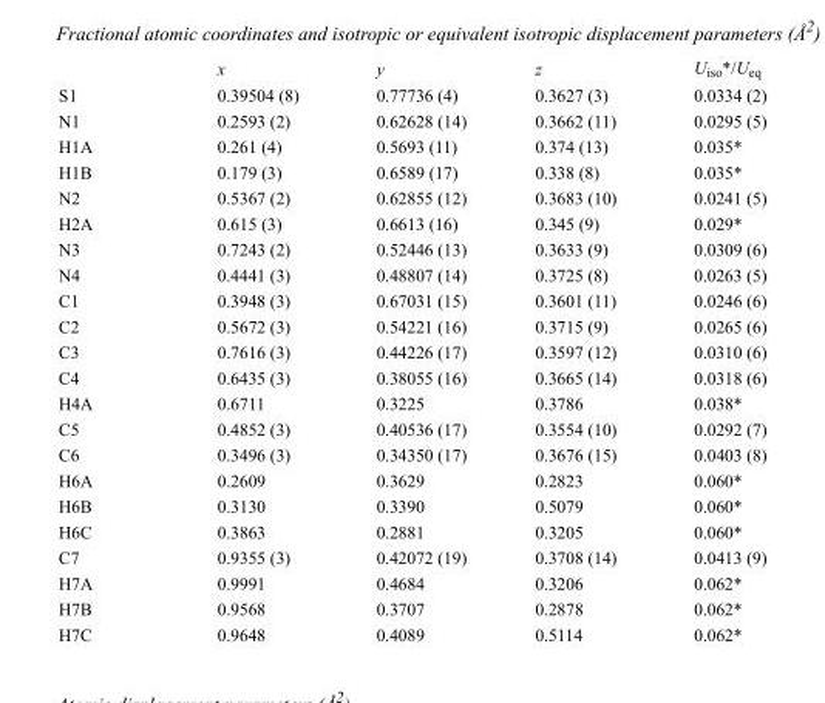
<table><thead><tr><td></td><td>x</td><td>y</td><td>z</td><td>U<sub>iso</sub>*/U<sub>eq</sub></td></tr></thead><tbody><tr><td>S1</td><td>0.39504 (8)</td><td>0.77736 (4)</td><td>0.3627 (3)</td><td>0.0334 (2)</td></tr><tr><td>N1</td><td>0.2593 (2)</td><td>0.62628 (14)</td><td>0.3662 (11)</td><td>0.0295 (5)</td></tr><tr><td>H1A</td><td>0.261 (4)</td><td>0.5693 (11)</td><td>0.374 (13)</td><td>0.035*</td></tr><tr><td>H1B</td><td>0.179 (3)</td><td>0.6589 (17)</td><td>0.338 (8)</td><td>0.035*</td></tr><tr><td>N2</td><td>0.5367 (2)</td><td>0.62855 (12)</td><td>0.3683 (10)</td><td>0.0241 (5)</td></tr><tr><td>H2A</td><td>0.615 (3)</td><td>0.6613 (16)</td><td>0.345 (9)</td><td>0.029*</td></tr><tr><td>N3</td><td>0.7243 (2)</td><td>0.52446 (13)</td><td>0.3633 (9)</td><td>0.0309 (6)</td></tr><tr><td>N4</td><td>0.4441 (3)</td><td>0.48807 (14)</td><td>0.3725 (8)</td><td>0.0263 (5)</td></tr><tr><td>C1</td><td>0.3948 (3)</td><td>0.67031 (15)</td><td>0.3601 (11)</td><td>0.0246 (6)</td></tr><tr><td>C2</td><td>0.5672 (3)</td><td>0.54221 (16)</td><td>0.3715 (9)</td><td>0.0265 (6)</td></tr><tr><td>C3</td><td>0.7616 (3)</td><td>0.44226 (17)</td><td>0.3597 (12)</td><td>0.0310 (6)</td></tr><tr><td>C4</td><td>0.6435 (3)</td><td>0.38055 (16)</td><td>0.3665 (14)</td><td>0.0318 (6)</td></tr><tr><td>H4A</td><td>0.6711</td><td>0.3225</td><td>0.3786</td><td>0.038*</td></tr><tr><td>C5</td><td>0.4852 (3)</td><td>0.40536 (17)</td><td>0.3554 (10)</td><td>0.0292 (7)</td></tr><tr><td>C6</td><td>0.3496 (3)</td><td>0.34350 (17)</td><td>0.3676 (15)</td><td>0.0403 (8)</td></tr><tr><td>H6A</td><td>0.2609</td><td>0.3629</td><td>0.2823</td><td>0.060*</td></tr><tr><td>H6B</td><td>0.3130</td><td>0.3390</td><td>0.5079</td><td>0.060*</td></tr><tr><td>H6C</td><td>0.3863</td><td>0.2881</td><td>0.3205</td><td>0.060*</td></tr><tr><td>C7</td><td>0.9355 (3)</td><td>0.42072 (19)</td><td>0.3708 (14)</td><td>0.0413 (9)</td></tr><tr><td>H7A</td><td>0.9991</td><td>0.4684</td><td>0.3206</td><td>0.062*</td></tr><tr><td>H7B</td><td>0.9568</td><td>0.3707</td><td>0.2878</td><td>0.062*</td></tr><tr><td>H7C</td><td>0.9648</td><td>0.4089</td><td>0.5114</td><td>0.062*</td></tr></tbody></table>